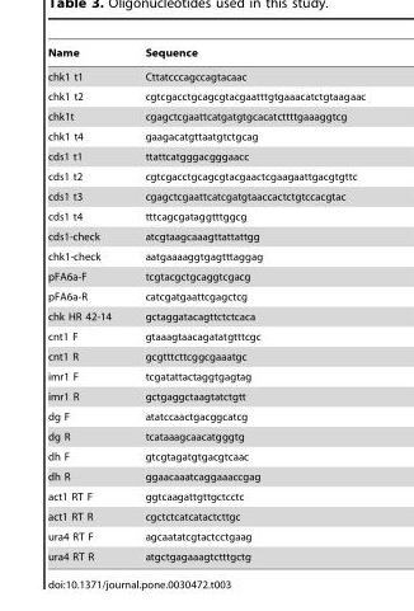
<table><thead><tr><td>Name</td><td>Sequence</td></tr></thead><tbody><tr><td>chk1 t1</td><td>Cttatcccagccagtacaac</td></tr><tr><td>chk1 t2</td><td>cgtcgacctgcagcgtacgaatttgtgaaacatctgtaagaac</td></tr><tr><td>chk1t</td><td>cgagctcgaattcatgatgtgcacatcttttgaaaggtcg</td></tr><tr><td>chk1 t4</td><td>gaagacatgttaatgtctgcag</td></tr><tr><td>cds1 t1</td><td>ttattcatgggacgggaacc</td></tr><tr><td>cds1 t2</td><td>cgtcgacctgcagcgtacgaactcgaagaattgacgtgttc</td></tr><tr><td>cds1 t3</td><td>cgagctcgaattcatcgatgtaaccactctgtccacgtac</td></tr><tr><td>cds1 t4</td><td>tttcagcgataggtttggcg</td></tr><tr><td>cds1-check</td><td>atcgtaagcaaagttattattgg</td></tr><tr><td>chk1-check</td><td>aatgaaaaggtgagtttaggag</td></tr><tr><td>pFA6a-F</td><td>tcgtacgctgcaggtcgacg</td></tr><tr><td>pFA6a-R</td><td>catcgatgaattcgagctcg</td></tr><tr><td>chk HR 42-14</td><td>gctaggatacagttctctcaca</td></tr><tr><td>cnt1 F</td><td>gtaaagtaacagatatgtttcgc</td></tr><tr><td>cnt1 R</td><td>gcgtttcttcggcgaaatgc</td></tr><tr><td>imr1 F</td><td>tcgatattactaggtgagtag</td></tr><tr><td>imr1 R</td><td>gctgaggctaagtatctgtt</td></tr><tr><td>dg F</td><td>atatccaactgacggcatcg</td></tr><tr><td>dg R</td><td>tcataaagcaacatgggtg</td></tr><tr><td>dh F</td><td>gtcgtagatgtgacgtcaac</td></tr><tr><td>dh R</td><td>ggaacaaatcaggaaaccgag</td></tr><tr><td>act1 RT F</td><td>ggtcaagattgttgctcctc</td></tr><tr><td>act1 RT R</td><td>cgctctcatcatactcttgc</td></tr><tr><td>ura4 RT F</td><td>agcaatatcgtactcctgaag</td></tr><tr><td>ura4 RT R</td><td>atgctgagaaagtctttgctg</td></tr></tbody></table>